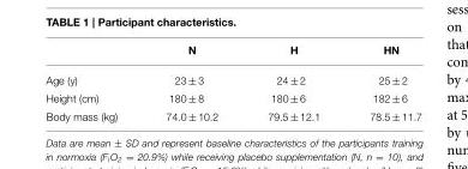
<table><thead><tr><td></td><td>N</td><td>H</td><td>HN</td></tr></thead><tbody><tr><td>Age (y)</td><td>23 ± 3</td><td>24 ± 2</td><td>25 ± 2</td></tr><tr><td>Height (cm)</td><td>180 ± 8</td><td>180 ± 6</td><td>182 ± 6</td></tr><tr><td>Body mass (kg)</td><td>74.0 ± 10.2</td><td>79.5 ± 12.1</td><td>78.5 ± 11.7</td></tr></tbody></table>